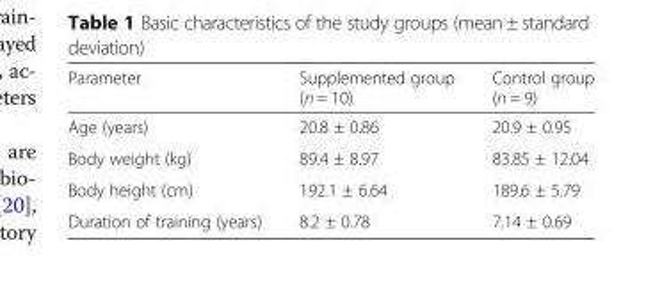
<table><thead><tr><td>Parameter</td><td>Supplemented group (n = 10)</td><td>Control group (n = 9)</td></tr></thead><tbody><tr><td>Age (years)</td><td>20.8 ± 0.86</td><td>20.9 ± 0.95</td></tr><tr><td>Body weight (kg)</td><td>89.4 ± 8.97</td><td>83.85 ± 12.04</td></tr><tr><td>Body height (cm)</td><td>192.1 ± 6.64</td><td>189.6 ± 5.79</td></tr><tr><td>Duration of training (years)</td><td>8.2 ± 0.78</td><td>7.14 ± 0.69</td></tr></tbody></table>